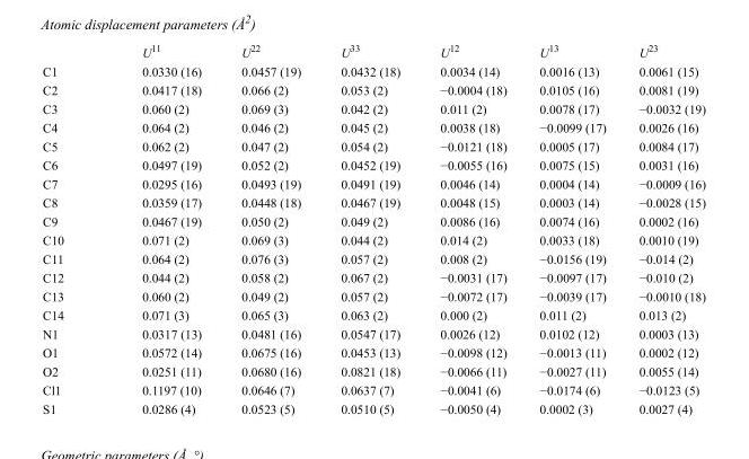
<table><thead><tr><td></td><td>U<sup>11</sup></td><td>U<sup>22</sup></td><td>U<sup>33</sup></td><td>U<sup>12</sup></td><td>U<sup>13</sup></td><td>U<sup>23</sup></td></tr></thead><tbody><tr><td>C1</td><td>0.0330 (16)</td><td>0.0457 (19)</td><td>0.0432 (18)</td><td>0.0034 (14)</td><td>0.0016 (13)</td><td>0.0061 (15)</td></tr><tr><td>C2</td><td>0.0417 (18)</td><td>0.066 (2)</td><td>0.053 (2)</td><td>−0.0004 (18)</td><td>0.0105 (16)</td><td>0.0081 (19)</td></tr><tr><td>C3</td><td>0.060 (2)</td><td>0.069 (3)</td><td>0.042 (2)</td><td>0.011 (2)</td><td>0.0078 (17)</td><td>−0.0032 (19)</td></tr><tr><td>C4</td><td>0.064 (2)</td><td>0.046 (2)</td><td>0.045 (2)</td><td>0.0038 (18)</td><td>−0.0099 (17)</td><td>0.0026 (16)</td></tr><tr><td>C5</td><td>0.062 (2)</td><td>0.047 (2)</td><td>0.054 (2)</td><td>−0.0121 (18)</td><td>0.0005 (17)</td><td>0.0084 (17)</td></tr><tr><td>C6</td><td>0.0497 (19)</td><td>0.052 (2)</td><td>0.0452 (19)</td><td>−0.0055 (16)</td><td>0.0075 (15)</td><td>0.0031 (16)</td></tr><tr><td>C7</td><td>0.0295 (16)</td><td>0.0493 (19)</td><td>0.0491 (19)</td><td>0.0046 (14)</td><td>0.0004 (14)</td><td>−0.0009 (16)</td></tr><tr><td>C8</td><td>0.0359 (17)</td><td>0.0448 (18)</td><td>0.0467 (19)</td><td>0.0048 (15)</td><td>0.0003 (14)</td><td>−0.0028 (15)</td></tr><tr><td>C9</td><td>0.0467 (19)</td><td>0.050 (2)</td><td>0.049 (2)</td><td>0.0086 (16)</td><td>0.0074 (16)</td><td>0.0002 (16)</td></tr><tr><td>C10</td><td>0.071 (2)</td><td>0.069 (3)</td><td>0.044 (2)</td><td>0.014 (2)</td><td>0.0033 (18)</td><td>0.0010 (19)</td></tr><tr><td>C11</td><td>0.064 (2)</td><td>0.076 (3)</td><td>0.057 (2)</td><td>0.008 (2)</td><td>−0.0156 (19)</td><td>−0.014 (2)</td></tr><tr><td>C12</td><td>0.044 (2)</td><td>0.058 (2)</td><td>0.067 (2)</td><td>−0.0031 (17)</td><td>−0.0097 (17)</td><td>−0.010 (2)</td></tr><tr><td>C13</td><td>0.060 (2)</td><td>0.049 (2)</td><td>0.057 (2)</td><td>−0.0072 (17)</td><td>−0.0039 (17)</td><td>−0.0010 (18)</td></tr><tr><td>C14</td><td>0.071 (3)</td><td>0.065 (3)</td><td>0.063 (2)</td><td>0.000 (2)</td><td>0.011 (2)</td><td>0.013 (2)</td></tr><tr><td>N1</td><td>0.0317 (13)</td><td>0.0481 (16)</td><td>0.0547 (17)</td><td>0.0026 (12)</td><td>0.0102 (12)</td><td>0.0003 (13)</td></tr><tr><td>O1</td><td>0.0572 (14)</td><td>0.0675 (16)</td><td>0.0453 (13)</td><td>−0.0098 (12)</td><td>−0.0013 (11)</td><td>0.0002 (12)</td></tr><tr><td>O2</td><td>0.0251 (11)</td><td>0.0680 (16)</td><td>0.0821 (18)</td><td>−0.0066 (11)</td><td>−0.0027 (11)</td><td>0.0055 (14)</td></tr><tr><td>Cl1</td><td>0.1197 (10)</td><td>0.0646 (7)</td><td>0.0637 (7)</td><td>−0.0041 (6)</td><td>−0.0174 (6)</td><td>−0.0123 (5)</td></tr><tr><td>S1</td><td>0.0286 (4)</td><td>0.0523 (5)</td><td>0.0510 (5)</td><td>−0.0050 (4)</td><td>0.0002 (3)</td><td>0.0027 (4)</td></tr></tbody></table>